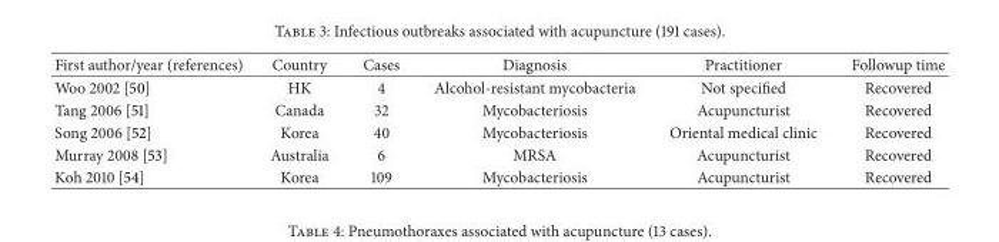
<table><thead><tr><td>First author/year (references)</td><td>Country</td><td>Cases</td><td>Diagnosis</td><td>Practitioner</td><td>Followup time</td></tr></thead><tbody><tr><td>Woo 2002 [50]</td><td>HK</td><td>4</td><td>Alcohol-resistant mycobacteria</td><td>Not specified</td><td>Recovered</td></tr><tr><td>Tang 2006 [51]</td><td>Canada</td><td>32</td><td>Mycobacteriosis</td><td>Acupuncturist</td><td>Recovered</td></tr><tr><td>Song 2006 [52]</td><td>Korea</td><td>40</td><td>Mycobacteriosis</td><td>Oriental medical clinic</td><td>Recovered</td></tr><tr><td>Murray 2008 [53]</td><td>Australia</td><td>6</td><td>MRSA</td><td>Acupuncturist</td><td>Recovered</td></tr><tr><td>Koh 2010 [54]</td><td>Korea</td><td>109</td><td>Mycobacteriosis</td><td>Acupuncturist</td><td>Recovered</td></tr></tbody></table>